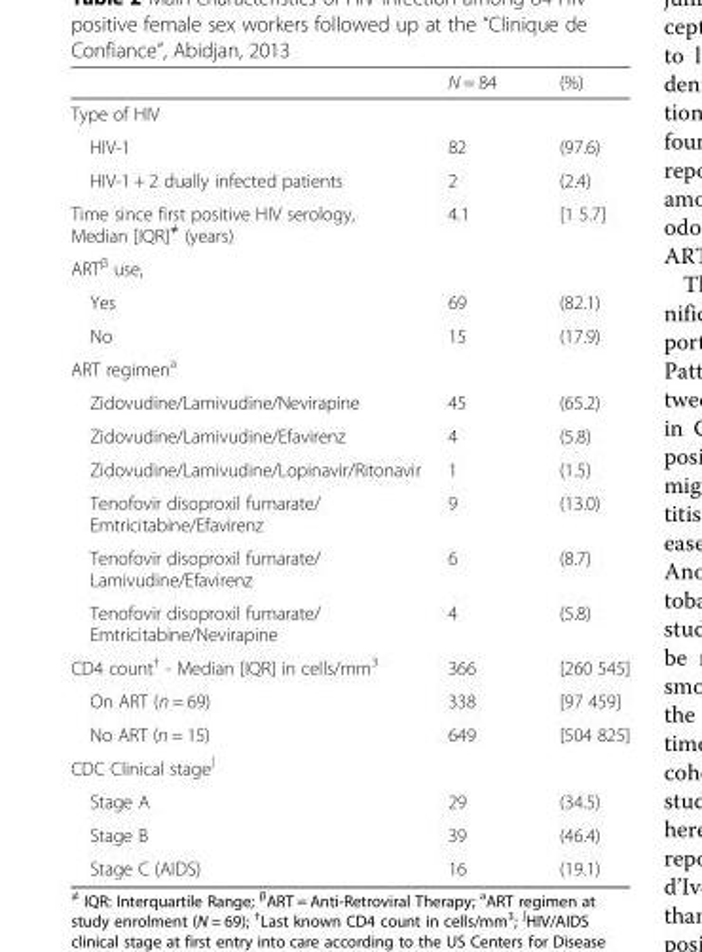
<table><thead><tr><td></td><td>N = 84</td><td>(%)</td></tr></thead><tbody><tr><td colspan="3">Type of HIV</td></tr><tr><td>HIV-1</td><td>82</td><td>(97.6)</td></tr><tr><td>HIV-1 + 2 dually infected patients</td><td>2</td><td>(2.4)</td></tr><tr><td>Time since first positive HIV serology, Median [IQR]<sup>≠</sup> (years)</td><td>4.1</td><td>[1 5.7]</td></tr><tr><td colspan="3">ART<sup>β</sup> use,</td></tr><tr><td>Yes</td><td>69</td><td>(82.1)</td></tr><tr><td>No</td><td>15</td><td>(17.9)</td></tr><tr><td colspan="3">ART regimen<sup>a</sup></td></tr><tr><td>Zidovudine/Lamivudine/Nevirapine</td><td>45</td><td>(65.2)</td></tr><tr><td>Zidovudine/Lamivudine/Efavirenz</td><td>4</td><td>(5.8)</td></tr><tr><td>Zidovudine/Lamivudine/Lopinavir/Ritonavir</td><td>1</td><td>(1.5)</td></tr><tr><td>Tenofovir disoproxil fumarate/ Emtricitabine/Efavirenz</td><td>9</td><td>(13.0)</td></tr><tr><td>Tenofovir disoproxil fumarate/ Lamivudine/Efavirenz</td><td>6</td><td>(8.7)</td></tr><tr><td>Tenofovir disoproxil fumarate/ Emtricitabine/Nevirapine</td><td>4</td><td>(5.8)</td></tr><tr><td>CD4 count<sup>†</sup> - Median [IQR] in cells/mm<sup>3</sup></td><td>366</td><td>[260 545]</td></tr><tr><td>On ART (n = 69)</td><td>338</td><td>[97 459]</td></tr><tr><td>No ART (n = 15)</td><td>649</td><td>[504 825]</td></tr><tr><td colspan="3">CDC Clinical stage<sup>∫</sup></td></tr><tr><td>Stage A</td><td>29</td><td>(34.5)</td></tr><tr><td>Stage B</td><td>39</td><td>(46.4)</td></tr><tr><td>Stage C (AIDS)</td><td>16</td><td>(19.1)</td></tr></tbody></table>